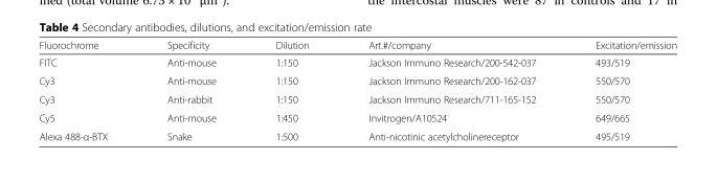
<table><thead><tr><td>Fluorochrome</td><td>Specificity</td><td>Dilution</td><td>Art.#/company</td><td>Excitation/emission</td></tr></thead><tbody><tr><td>FITC</td><td>Anti-mouse</td><td>1:150</td><td>Jackson Immuno Research/200-542-037</td><td>493/519</td></tr><tr><td>Cy3</td><td>Anti-mouse</td><td>1:150</td><td>Jackson Immuno Research/200-162-037</td><td>550/570</td></tr><tr><td>Cy3</td><td>Anti-rabbit</td><td>1:150</td><td>Jackson Immuno Research/711-165-152</td><td>550/570</td></tr><tr><td>Cy5</td><td>Anti-mouse</td><td>1:450</td><td>Invitrogen/A10524</td><td>649/665</td></tr><tr><td>Alexa 488-α-BTX</td><td>Snake</td><td>1:500</td><td>Anti-nicotinic acetylcholinereceptor</td><td>495/519</td></tr></tbody></table>